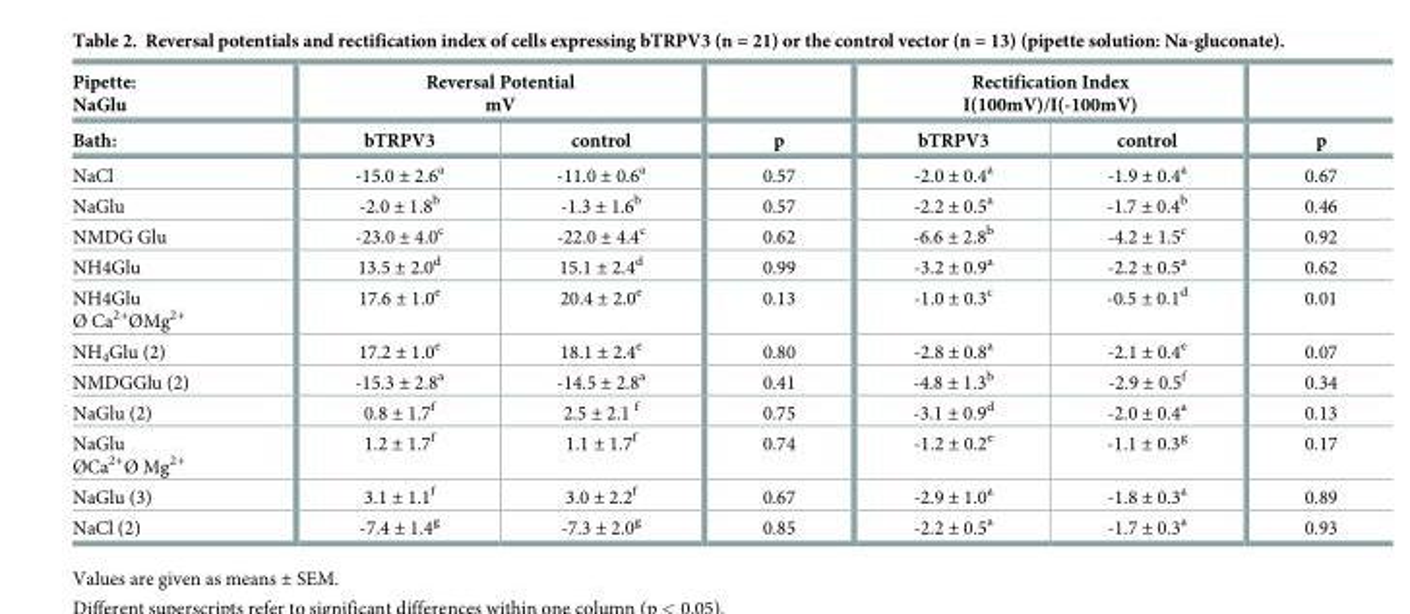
<table><thead><tr><td rowspan="2">Pipette: NaGlu Bath:</td><td colspan="2">Reversal Potential mV</td><td rowspan="2">p</td><td colspan="2">Rectification Index I(100mV)/I(-100mV)</td><td rowspan="2">p</td></tr><tr><td>bTRPV3</td><td>control</td><td>bTRPV3</td><td>control</td></tr></thead><tbody><tr><td>NaCl</td><td>-15.0 ± 2.6<sup>a</sup></td><td>-11.0 ± 0.6<sup>a</sup></td><td>0.57</td><td>-2.0 ± 0.4<sup>a</sup></td><td>-1.9 ± 0.4<sup>a</sup></td><td>0.67</td></tr><tr><td>NaGlu</td><td>-2.0 ± 1.8<sup>b</sup></td><td>-1.3 ± 1.6<sup>b</sup></td><td>0.57</td><td>-2.2 ± 0.5<sup>a</sup></td><td>-1.7 ± 0.4<sup>b</sup></td><td>0.46</td></tr><tr><td>NMDG Glu</td><td>-23.0 ± 4.0<sup>c</sup></td><td>-22.0 ± 4.4<sup>c</sup></td><td>0.62</td><td>-6.6 ± 2.8<sup>b</sup></td><td>-4.2 ± 1.5<sup>c</sup></td><td>0.92</td></tr><tr><td>NH4Glu</td><td>13.5 ± 2.0<sup>d</sup></td><td>15.1 ± 2.4<sup>d</sup></td><td>0.99</td><td>-3.2 ± 0.9<sup>a</sup></td><td>-2.2 ± 0.5<sup>a</sup></td><td>0.62</td></tr><tr><td>NH4Glu Ø Ca2+ØMg2+</td><td>17.6 ± 1.0<sup>e</sup></td><td>20.4 ± 2.0<sup>e</sup></td><td>0.13</td><td>-1.0 ± 0.3<sup>c</sup></td><td>-0.5 ± 0.1<sup>d</sup></td><td>0.01</td></tr><tr><td>NH<sub>4</sub>Glu (2)</td><td>17.2 ± 1.0<sup>e</sup></td><td>18.1 ± 2.4<sup>e</sup></td><td>0.80</td><td>-2.8 ± 0.8<sup>a</sup></td><td>-2.1 ± 0.4<sup>e</sup></td><td>0.07</td></tr><tr><td>NMDGGlu (2)</td><td>-15.3 ± 2.8<sup>a</sup></td><td>-14.5 ± 2.8<sup>a</sup></td><td>0.41</td><td>-4.8 ± 1.3<sup>b</sup></td><td>-2.9 ± 0.5<sup>f</sup></td><td>0.34</td></tr><tr><td>NaGlu (2)</td><td>0.8 ± 1.7<sup>f</sup></td><td>2.5 ± 2.1 <sup>f</sup></td><td>0.75</td><td>-3.1 ± 0.9<sup>d</sup></td><td>-2.0 ± 0.4<sup>a</sup></td><td>0.13</td></tr><tr><td>NaGlu ØCa2+Ø Mg2+</td><td>1.2 ± 1.7<sup>f</sup></td><td>1.1 ± 1.7<sup>f</sup></td><td>0.74</td><td>-1.2 ± 0.2<sup>e</sup></td><td>-1.1 ± 0.3<sup>g</sup></td><td>0.17</td></tr><tr><td>NaGlu (3)</td><td>3.1 ± 1.1<sup>f</sup></td><td>3.0 ± 2.2<sup>f</sup></td><td>0.67</td><td>-2.9 ± 1.0<sup>a</sup></td><td>-1.8 ± 0.3<sup>a</sup></td><td>0.89</td></tr><tr><td>NaCl (2)</td><td>-7.4 ± 1.4<sup>g</sup></td><td>-7.3 ± 2.0<sup>g</sup></td><td>0.85</td><td>-2.2 ± 0.5<sup>a</sup></td><td>-1.7 ± 0.3<sup>a</sup></td><td>0.93</td></tr></tbody></table>